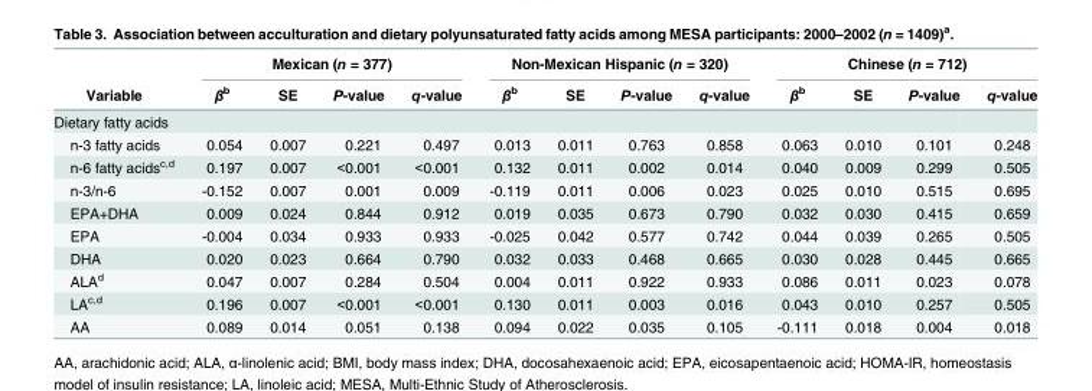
<table><thead><tr><td rowspan="2">Variable</td><td colspan="4">Mexican (n = 377)</td><td colspan="4">Non-Mexican Hispanic (n = 320)</td><td colspan="4">Chinese (n = 712)</td></tr><tr><td>β<sup>b</sup></td><td>SE</td><td>P-value</td><td>q-value</td><td>β<sup>b</sup></td><td>SE</td><td>P-value</td><td>q-value</td><td>β<sup>b</sup></td><td>SE</td><td>P-value</td><td>q-value</td></tr></thead><tbody><tr><td colspan="13">Dietary fatty acids</td></tr><tr><td>n-3 fatty acids</td><td>0.054</td><td>0.007</td><td>0.221</td><td>0.497</td><td>0.013</td><td>0.011</td><td>0.763</td><td>0.858</td><td>0.063</td><td>0.010</td><td>0.101</td><td>0.248</td></tr><tr><td>n-6 fatty acids<sup>c,d</sup></td><td>0.197</td><td>0.007</td><td>&lt;0.001</td><td>&lt;0.001</td><td>0.132</td><td>0.011</td><td>0.002</td><td>0.014</td><td>0.040</td><td>0.009</td><td>0.299</td><td>0.505</td></tr><tr><td>n-3/n-6</td><td>-0.152</td><td>0.007</td><td>0.001</td><td>0.009</td><td>-0.119</td><td>0.011</td><td>0.006</td><td>0.023</td><td>0.025</td><td>0.010</td><td>0.515</td><td>0.695</td></tr><tr><td>EPA+DHA</td><td>0.009</td><td>0.024</td><td>0.844</td><td>0.912</td><td>0.019</td><td>0.035</td><td>0.673</td><td>0.790</td><td>0.032</td><td>0.030</td><td>0.415</td><td>0.659</td></tr><tr><td>EPA</td><td>-0.004</td><td>0.034</td><td>0.933</td><td>0.933</td><td>-0.025</td><td>0.042</td><td>0.577</td><td>0.742</td><td>0.044</td><td>0.039</td><td>0.265</td><td>0.505</td></tr><tr><td>DHA</td><td>0.020</td><td>0.023</td><td>0.664</td><td>0.790</td><td>0.032</td><td>0.033</td><td>0.468</td><td>0.665</td><td>0.030</td><td>0.028</td><td>0.445</td><td>0.665</td></tr><tr><td>ALA<sup>d</sup></td><td>0.047</td><td>0.007</td><td>0.284</td><td>0.504</td><td>0.004</td><td>0.011</td><td>0.922</td><td>0.933</td><td>0.086</td><td>0.011</td><td>0.023</td><td>0.078</td></tr><tr><td>LA<sup>c,d</sup></td><td>0.196</td><td>0.007</td><td>&lt;0.001</td><td>&lt;0.001</td><td>0.130</td><td>0.011</td><td>0.003</td><td>0.016</td><td>0.043</td><td>0.010</td><td>0.257</td><td>0.505</td></tr><tr><td>AA</td><td>0.089</td><td>0.014</td><td>0.051</td><td>0.138</td><td>0.094</td><td>0.022</td><td>0.035</td><td>0.105</td><td>-0.111</td><td>0.018</td><td>0.004</td><td>0.018</td></tr></tbody></table>